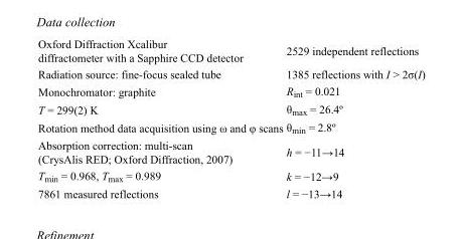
<table><tbody><tr><td>Oxford Diffraction Xcalibur diffractometer with a Sapphire CCD detector</td><td>2529 independent reflections</td></tr><tr><td>Radiation source: fine-focus sealed tube</td><td>1385 reflections with I &gt; 2σ(I)</td></tr><tr><td>Monochromator: graphite</td><td>R<sub>int</sub> = 0.021</td></tr><tr><td>T = 299(2) K</td><td>θ<sub>max</sub> = 26.4º</td></tr><tr><td>Rotation method data acquisition using ω and φ scans</td><td>θ<sub>min</sub> = 2.8º</td></tr><tr><td>Absorption correction: multi-scan (CrysAlis RED; Oxford Diffraction, 2007)</td><td>h = −11→14</td></tr><tr><td>T<sub>min</sub> = 0.968, T<sub>max</sub> = 0.989</td><td>k = −12→9</td></tr><tr><td>7861 measured reflections</td><td>l = −13→14</td></tr></tbody></table>